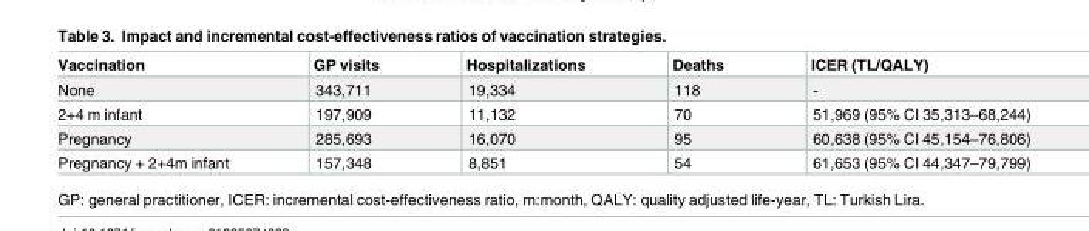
<table><thead><tr><td>Vaccination</td><td>GP visits</td><td>Hospitalizations</td><td>Deaths</td><td>ICER (TL/QALY)</td></tr></thead><tbody><tr><td>None</td><td>343,711</td><td>19,334</td><td>118</td><td>-</td></tr><tr><td>2+4 m infant</td><td>197,909</td><td>11,132</td><td>70</td><td>51,969 (95% CI 35,313–68,244)</td></tr><tr><td>Pregnancy</td><td>285,693</td><td>16,070</td><td>95</td><td>60,638 (95% CI 45,154–76,806)</td></tr><tr><td>Pregnancy + 2+4m infant</td><td>157,348</td><td>8,851</td><td>54</td><td>61,653 (95% CI 44,347–79,799)</td></tr></tbody></table>